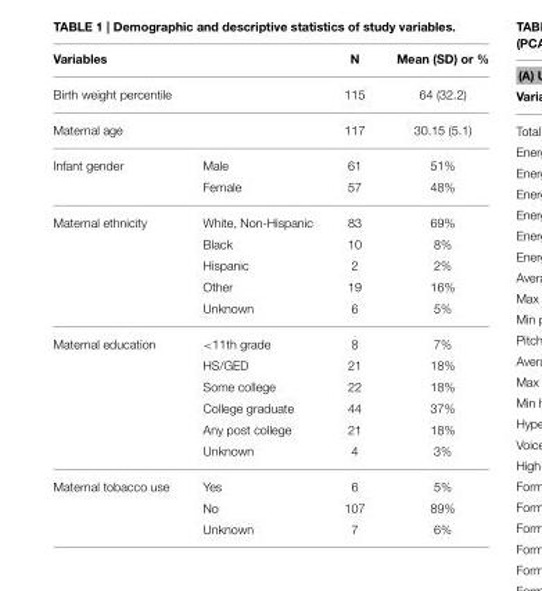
<table><thead><tr><td>Variables</td><td></td><td>N</td><td>Mean (SD) or %</td></tr></thead><tbody><tr><td>Birth weight percentile</td><td></td><td>115</td><td>64 (32.2)</td></tr><tr><td>Maternal age</td><td></td><td>117</td><td>30.15 (5.1)</td></tr><tr><td rowspan="2">Infant gender</td><td>Male</td><td>61</td><td>51%</td></tr><tr><td>Female</td><td>57</td><td>48%</td></tr><tr><td rowspan="5">Maternal ethnicity</td><td>White, Non-Hispanic</td><td>83</td><td>69%</td></tr><tr><td>Black</td><td>10</td><td>8%</td></tr><tr><td>Hispanic</td><td>2</td><td>2%</td></tr><tr><td>Other</td><td>19</td><td>16%</td></tr><tr><td>Unknown</td><td>6</td><td>5%</td></tr><tr><td rowspan="6">Maternal education</td><td>&lt;11th grade</td><td>8</td><td>7%</td></tr><tr><td>HS/GED</td><td>21</td><td>18%</td></tr><tr><td>Some college</td><td>22</td><td>18%</td></tr><tr><td>College graduate</td><td>44</td><td>37%</td></tr><tr><td>Any post college</td><td>21</td><td>18%</td></tr><tr><td>Unknown</td><td>4</td><td>3%</td></tr><tr><td rowspan="3">Maternal tobacco use</td><td>Yes</td><td>6</td><td>5%</td></tr><tr><td>No</td><td>107</td><td>89%</td></tr><tr><td>Unknown</td><td>7</td><td>6%</td></tr></tbody></table>